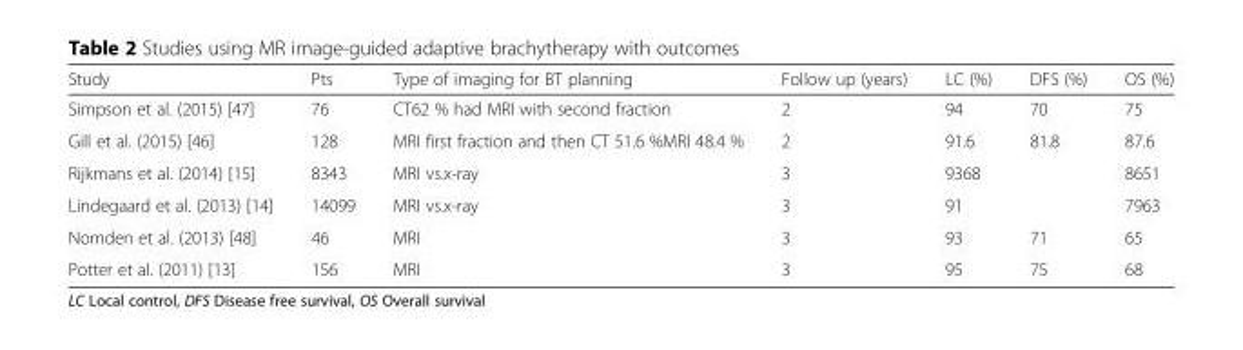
<table><thead><tr><td>Study</td><td>Pts</td><td>Type of imaging for BT planning</td><td>Follow up (years)</td><td>LC (%)</td><td>DFS (%)</td><td>OS (%)</td></tr></thead><tbody><tr><td>Simpson et al. (2015) [47]</td><td>76</td><td>CT62 % had MRI with second fraction</td><td>2</td><td>94</td><td>70</td><td>75</td></tr><tr><td>Gill et al. (2015) [46]</td><td>128</td><td>MRI first fraction and then CT 51.6 %MRI 48.4 %</td><td>2</td><td>91.6</td><td>81.8</td><td>87.6</td></tr><tr><td>Rijkmans et al. (2014) [15]</td><td>8343</td><td>MRI vs.x-ray</td><td>3</td><td>9368</td><td></td><td>8651</td></tr><tr><td>Lindegaard et al. (2013) [14]</td><td>14099</td><td>MRI vs.x-ray</td><td>3</td><td>91</td><td></td><td>7963</td></tr><tr><td>Nomden et al. (2013) [48]</td><td>46</td><td>MRI</td><td>3</td><td>93</td><td>71</td><td>65</td></tr><tr><td>Potter et al. (2011) [13]</td><td>156</td><td>MRI</td><td>3</td><td>95</td><td>75</td><td>68</td></tr></tbody></table>